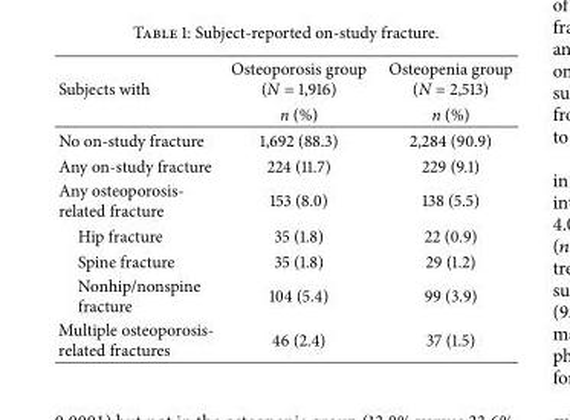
<table><thead><tr><td rowspan="2">Subjects with</td><td rowspan="2">Osteoporosis group (N = 1,916) n (%)</td><td rowspan="2">Osteopenia group (N = 2,513) n (%)</td></tr><tr></tr></thead><tbody><tr><td>No on-study fracture</td><td>1,692 (88.3)</td><td>2,284 (90.9)</td></tr><tr><td>Any on-study fracture</td><td>224 (11.7)</td><td>229 (9.1)</td></tr><tr><td>Any osteoporosis- related fracture</td><td>153 (8.0)</td><td>138 (5.5)</td></tr><tr><td>Hip fracture</td><td>35 (1.8)</td><td>22 (0.9)</td></tr><tr><td>Spine fracture</td><td>35 (1.8)</td><td>29 (1.2)</td></tr><tr><td>Nonhip/nonspine fracture</td><td>104 (5.4)</td><td>99 (3.9)</td></tr><tr><td>Multiple osteoporosis- related fractures</td><td>46 (2.4)</td><td>37 (1.5)</td></tr></tbody></table>